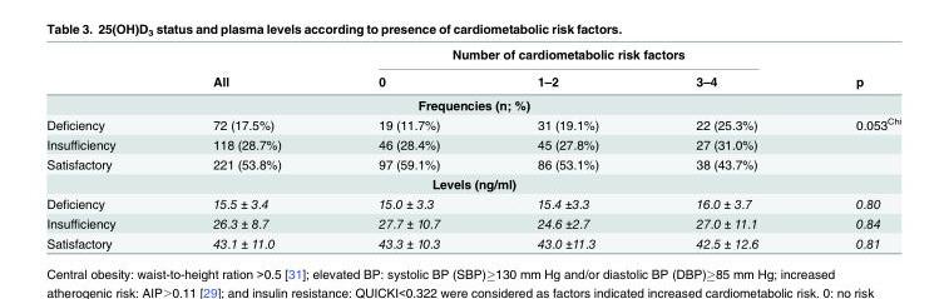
<table><thead><tr><td rowspan="2"></td><td rowspan="2">All</td><td colspan="3">Number of cardiometabolic risk factors</td><td rowspan="2">p</td></tr><tr><td>0</td><td>1–2</td><td>3–4</td></tr></thead><tbody><tr><td colspan="6">Frequencies (n; %)</td></tr><tr><td>Deficiency</td><td>72 (17.5%)</td><td>19 (11.7%)</td><td>31 (19.1%)</td><td>22 (25.3%)</td><td>0.053<sup>Chi</sup></td></tr><tr><td>Insufficiency</td><td>118 (28.7%)</td><td>46 (28.4%)</td><td>45 (27.8%)</td><td>27 (31.0%)</td><td></td></tr><tr><td>Satisfactory</td><td>221 (53.8%)</td><td>97 (59.1%)</td><td>86 (53.1%)</td><td>38 (43.7%)</td><td></td></tr><tr><td colspan="6">Levels (ng/ml)</td></tr><tr><td>Deficiency</td><td>15.5 ± 3.4</td><td>15.0 ± 3.3</td><td>15.4 ±3.3</td><td>16.0 ± 3.7</td><td>0.80</td></tr><tr><td>Insufficiency</td><td>26.3 ± 8.7</td><td>27.7 ± 10.7</td><td>24.6 ±2.7</td><td>27.0 ± 11.1</td><td>0.84</td></tr><tr><td>Satisfactory</td><td>43.1 ± 11.0</td><td>43.3 ± 10.3</td><td>43.0 ±11.3</td><td>42.5 ± 12.6</td><td>0.81</td></tr></tbody></table>